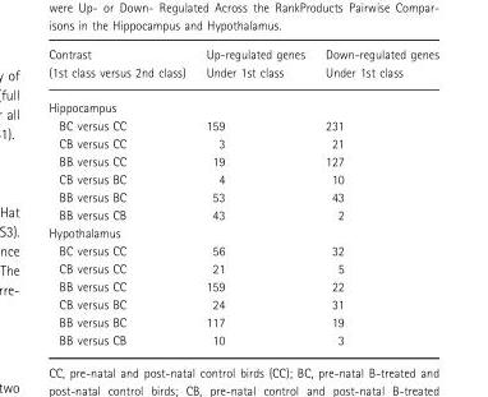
<table><thead><tr><td rowspan="2">Contrast (1st class versus 2nd class)</td><td rowspan="2">Up-regulated genes Under 1st class</td><td rowspan="2">Down-regulated genes Under 1st class</td></tr><tr></tr></thead><tbody><tr><td colspan="3">Hippocampus</td></tr><tr><td>BC versus CC</td><td>159</td><td>231</td></tr><tr><td>CB versus CC</td><td>3</td><td>21</td></tr><tr><td>BB versus CC</td><td>19</td><td>127</td></tr><tr><td>CB versus BC</td><td>4</td><td>10</td></tr><tr><td>BB versus BC</td><td>53</td><td>43</td></tr><tr><td>BB versus CB</td><td>43</td><td>2</td></tr><tr><td colspan="3">Hypothalamus</td></tr><tr><td>BC versus CC</td><td>56</td><td>32</td></tr><tr><td>CB versus CC</td><td>21</td><td>5</td></tr><tr><td>BB versus CC</td><td>159</td><td>22</td></tr><tr><td>CB versus BC</td><td>24</td><td>31</td></tr><tr><td>BB versus BC</td><td>117</td><td>19</td></tr><tr><td>BB versus CB</td><td>10</td><td>3</td></tr></tbody></table>